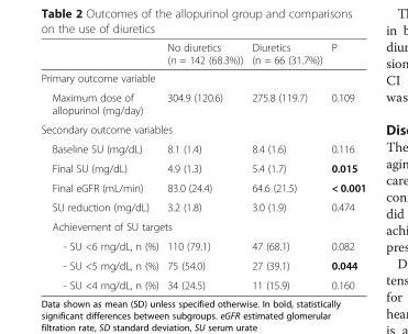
<table><thead><tr><td></td><td>No diuretics (n = 142 (68.3%))</td><td>Diuretics (n = 66 (31.7%))</td><td>P</td></tr></thead><tbody><tr><td colspan="4">Primary outcome variable</td></tr><tr><td>Maximum dose of allopurinol (mg/day)</td><td>304.9 (120.6)</td><td>275.8 (119.7)</td><td>0.109</td></tr><tr><td colspan="4">Secondary outcome variables</td></tr><tr><td>Baseline SU (mg/dL)</td><td>8.1 (1.4)</td><td>8.4 (1.6)</td><td>0.116</td></tr><tr><td>Final SU (mg/dL)</td><td>4.9 (1.3)</td><td>5.4 (1.7)</td><td>0.015</td></tr><tr><td>Final eGFR (mL/min)</td><td>83.0 (24.4)</td><td>64.6 (21.5)</td><td>&lt; 0.001</td></tr><tr><td>SU reduction (mg/dL)</td><td>3.2 (1.8)</td><td>3.0 (1.9)</td><td>0.474</td></tr><tr><td colspan="4">Achievement of SU targets</td></tr><tr><td>- SU &lt;6 mg/dL, n (%)</td><td>110 (79.1)</td><td>47 (68.1)</td><td>0.082</td></tr><tr><td>- SU &lt;5 mg/dL, n (%)</td><td>75 (54.0)</td><td>27 (39.1)</td><td>0.044</td></tr><tr><td>- SU &lt;4 mg/dL, n (%)</td><td>34 (24.5)</td><td>11 (15.9)</td><td>0.160</td></tr></tbody></table>